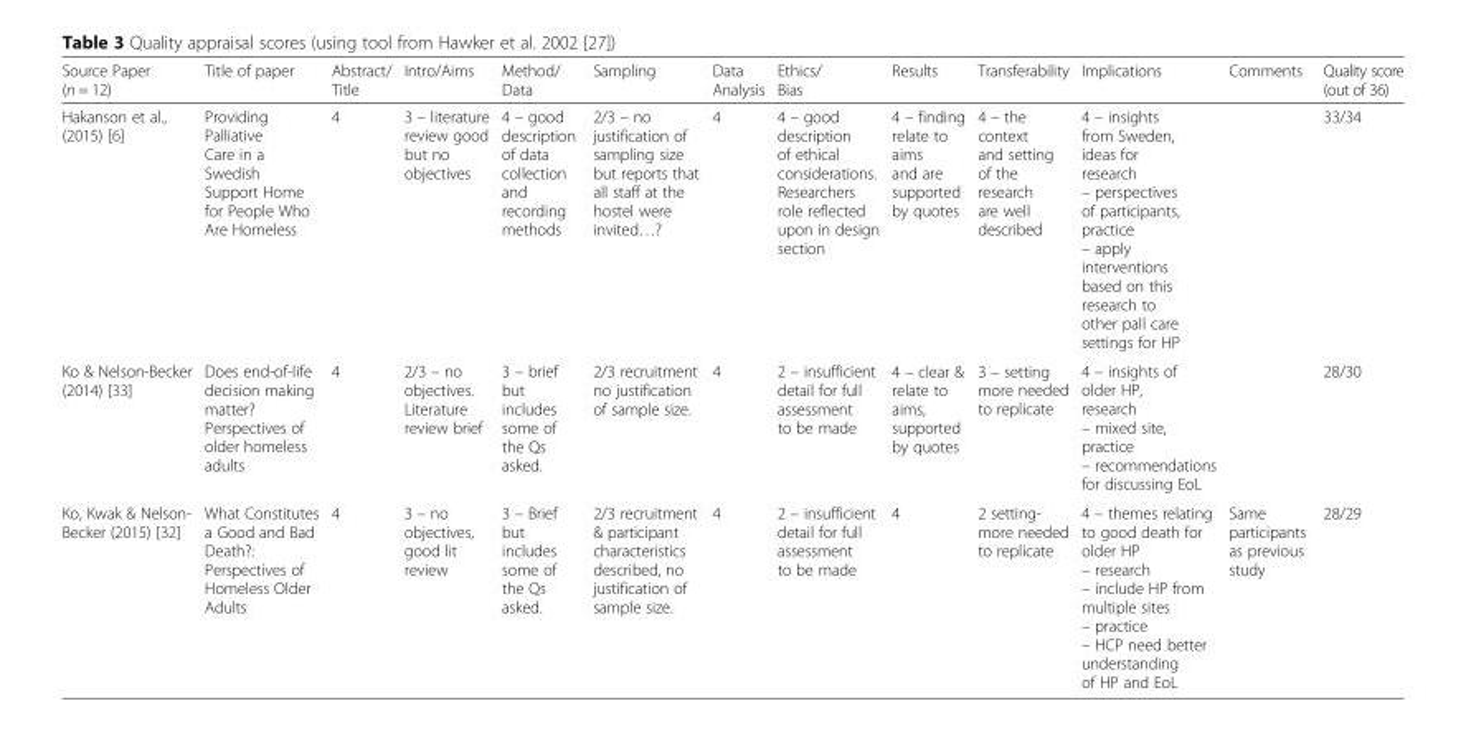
<table><thead><tr><td>Source Paper (n = 12)</td><td>Title of paper</td><td>Abstract/ Title</td><td>Intro/Aims</td><td>Method/ Data</td><td>Sampling</td><td>Data Analysis</td><td>Ethics/ Bias</td><td>Results</td><td>Transferability</td><td>Implications</td><td>Comments</td><td>Quality score (out of 36)</td></tr></thead><tbody><tr><td>Hakanson et al., (2015) [6]</td><td>Providing Palliative Care in a Swedish Support Home for People Who Are Homeless</td><td>4</td><td>3 – literature review good but no objectives</td><td>4 – good description of data collection and recording methods</td><td>2/3 – no justification of sampling size but reports that all staff at the hostel were invited…?</td><td>4</td><td>4 – good description of ethical considerations. Researchers role reflected upon in design section</td><td>4 – finding relate to aims and are supported by quotes</td><td>4 – the context and setting of the research are well described</td><td>4 – insights from Sweden, ideas for research – perspectives of participants, practice – apply interventions based on this research to other pall care settings for HP</td><td></td><td>33/34</td></tr><tr><td>Ko &amp; Nelson-Becker (2014) [33]</td><td>Does end-of-life decision making matter? Perspectives of older homeless adults</td><td>4</td><td>2/3 – no objectives. Literature review brief</td><td>3 – brief but includes some of the Qs asked.</td><td>2/3 recruitment no justification of sample size.</td><td>4</td><td>2 – insufficient detail for full assessment to be made</td><td>4 – clear &amp; relate to aims, supported by quotes</td><td>3 – setting more needed to replicate</td><td>4 – insights of older HP, research – mixed site, practice – recommendations for discussing EoL</td><td></td><td>28/30</td></tr><tr><td>Ko, Kwak &amp; Nelson- Becker (2015) [32]</td><td>What Constitutes a Good and Bad Death?: Perspectives of Homeless Older Adults</td><td>4</td><td>3 – no objectives, good lit review</td><td>3 – Brief but includes some of the Qs asked.</td><td>2/3 recruitment &amp; participant characteristics described, no justification of sample size.</td><td>4</td><td>2 – insufficient detail for full assessment to be made</td><td>4</td><td>2 setting- more needed to replicate</td><td>4 – themes relating to good death for older HP – research – include HP from multiple sites – practice – HCP need better understanding of HP and EoL</td><td>Same participants as previous study</td><td>28/29</td></tr></tbody></table>